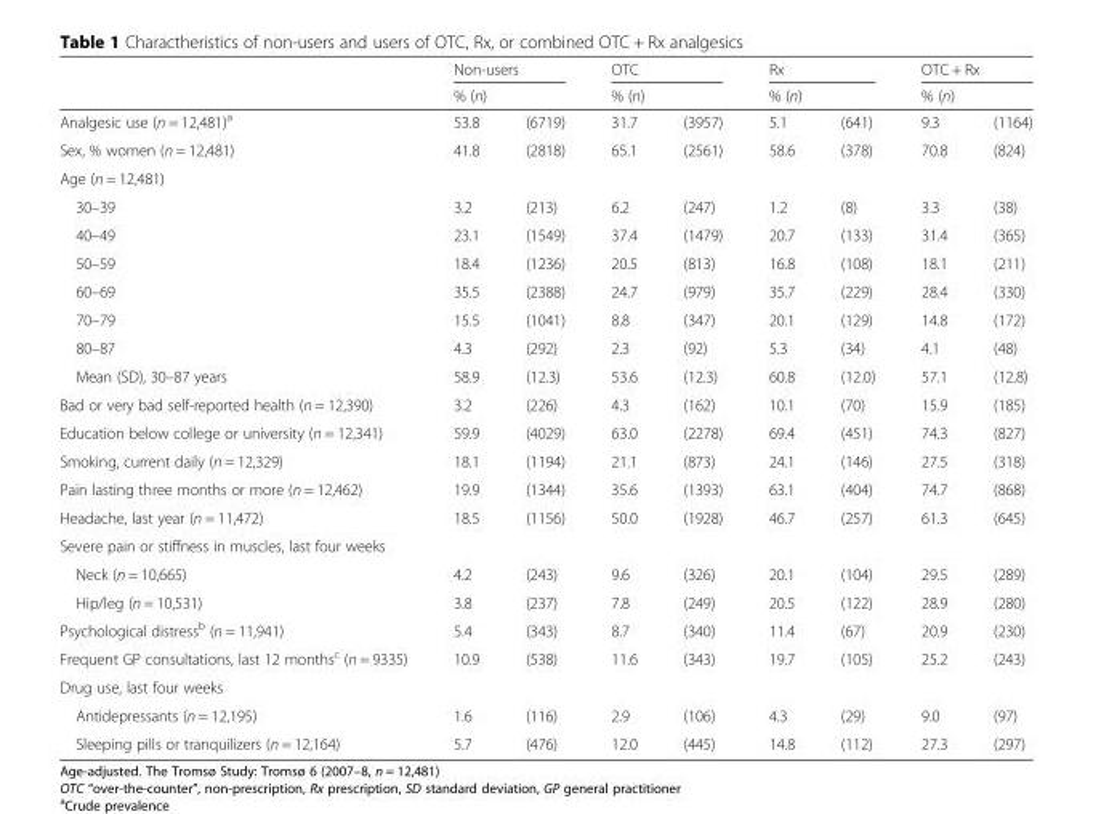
<table><thead><tr><td rowspan="3">Analgesic use (n = 12,481)<sup>a</sup></td><td rowspan="2" colspan="2">Non-users % (n)</td><td rowspan="2" colspan="2">OTC % (n)</td><td rowspan="2" colspan="2">Rx % (n)</td><td rowspan="2" colspan="2">OTC + Rx % (n)</td></tr><tr></tr><tr><td>53.8</td><td>(6719)</td><td>31.7</td><td>(3957)</td><td>5.1</td><td>(641)</td><td>9.3</td><td>(1164)</td></tr></thead><tbody><tr><td>Sex, % women (n = 12,481)</td><td>41.8</td><td>(2818)</td><td>65.1</td><td>(2561)</td><td>58.6</td><td>(378)</td><td>70.8</td><td>(824)</td></tr><tr><td colspan="9">Age (n = 12,481)</td></tr><tr><td>30–39</td><td>3.2</td><td>(213)</td><td>6.2</td><td>(247)</td><td>1.2</td><td>(8)</td><td>3.3</td><td>(38)</td></tr><tr><td>40–49</td><td>23.1</td><td>(1549)</td><td>37.4</td><td>(1479)</td><td>20.7</td><td>(133)</td><td>31.4</td><td>(365)</td></tr><tr><td>50–59</td><td>18.4</td><td>(1236)</td><td>20.5</td><td>(813)</td><td>16.8</td><td>(108)</td><td>18.1</td><td>(211)</td></tr><tr><td>60–69</td><td>35.5</td><td>(2388)</td><td>24.7</td><td>(979)</td><td>35.7</td><td>(229)</td><td>28.4</td><td>(330)</td></tr><tr><td>70–79</td><td>15.5</td><td>(1041)</td><td>8.8</td><td>(347)</td><td>20.1</td><td>(129)</td><td>14.8</td><td>(172)</td></tr><tr><td>80–87</td><td>4.3</td><td>(292)</td><td>2.3</td><td>(92)</td><td>5.3</td><td>(34)</td><td>4.1</td><td>(48)</td></tr><tr><td>Mean (SD), 30–87 years</td><td>58.9</td><td>(12.3)</td><td>53.6</td><td>(12.3)</td><td>60.8</td><td>(12.0)</td><td>57.1</td><td>(12.8)</td></tr><tr><td>Bad or very bad self-reported health (n = 12,390)</td><td>3.2</td><td>(226)</td><td>4.3</td><td>(162)</td><td>10.1</td><td>(70)</td><td>15.9</td><td>(185)</td></tr><tr><td>Education below college or university (n = 12,341)</td><td>59.9</td><td>(4029)</td><td>63.0</td><td>(2278)</td><td>69.4</td><td>(451)</td><td>74.3</td><td>(827)</td></tr><tr><td>Smoking, current daily (n = 12,329)</td><td>18.1</td><td>(1194)</td><td>21.1</td><td>(873)</td><td>24.1</td><td>(146)</td><td>27.5</td><td>(318)</td></tr><tr><td>Pain lasting three months or more (n = 12,462)</td><td>19.9</td><td>(1344)</td><td>35.6</td><td>(1393)</td><td>63.1</td><td>(404)</td><td>74.7</td><td>(868)</td></tr><tr><td>Headache, last year (n = 11,472)</td><td>18.5</td><td>(1156)</td><td>50.0</td><td>(1928)</td><td>46.7</td><td>(257)</td><td>61.3</td><td>(645)</td></tr><tr><td colspan="9">Severe pain or stiffness in muscles, last four weeks</td></tr><tr><td>Neck (n = 10,665)</td><td>4.2</td><td>(243)</td><td>9.6</td><td>(326)</td><td>20.1</td><td>(104)</td><td>29.5</td><td>(289)</td></tr><tr><td>Hip/leg (n = 10,531)</td><td>3.8</td><td>(237)</td><td>7.8</td><td>(249)</td><td>20.5</td><td>(122)</td><td>28.9</td><td>(280)</td></tr><tr><td>Psychological distress<sup>b</sup> (n = 11,941)</td><td>5.4</td><td>(343)</td><td>8.7</td><td>(340)</td><td>11.4</td><td>(67)</td><td>20.9</td><td>(230)</td></tr><tr><td>Frequent GP consultations, last 12 months<sup>c</sup> (n = 9335)</td><td>10.9</td><td>(538)</td><td>11.6</td><td>(343)</td><td>19.7</td><td>(105)</td><td>25.2</td><td>(243)</td></tr><tr><td colspan="9">Drug use, last four weeks</td></tr><tr><td>Antidepressants (n = 12,195)</td><td>1.6</td><td>(116)</td><td>2.9</td><td>(106)</td><td>4.3</td><td>(29)</td><td>9.0</td><td>(97)</td></tr><tr><td>Sleeping pills or tranquilizers (n = 12,164)</td><td>5.7</td><td>(476)</td><td>12.0</td><td>(445)</td><td>14.8</td><td>(112)</td><td>27.3</td><td>(297)</td></tr></tbody></table>